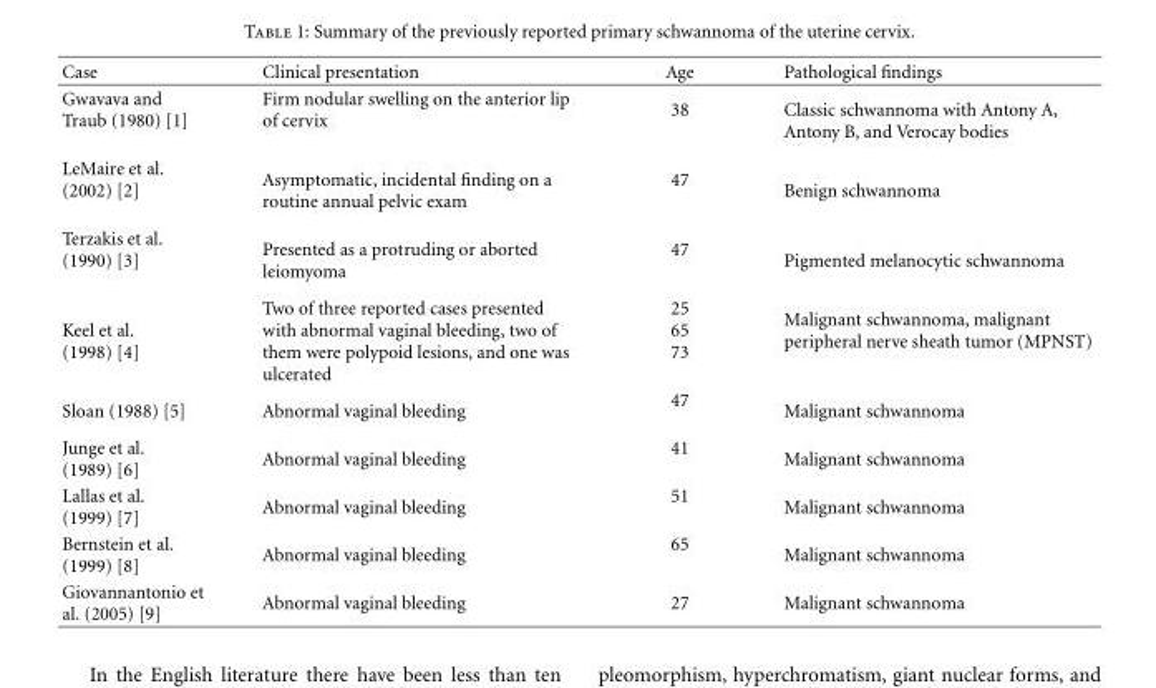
<table><thead><tr><td>Case</td><td>Clinical presentation</td><td>Age</td><td>Pathological findings</td></tr></thead><tbody><tr><td>Gwavava and Traub (1980) [1]</td><td>Firm nodular swelling on the anterior lip of cervix</td><td>38</td><td>Classic schwannoma with Antony A, Antony B, and Verocay bodies</td></tr><tr><td>LeMaire et al. (2002) [2]</td><td>Asymptomatic, incidental finding on a routine annual pelvic exam</td><td>47</td><td>Benign schwannoma</td></tr><tr><td>Terzakis et al. (1990) [3]</td><td>Presented as a protruding or aborted leiomyoma</td><td>47</td><td>Pigmented melanocytic schwannoma</td></tr><tr><td>Keel et al. (1998) [4]</td><td>Two of three reported cases presented with abnormal vaginal bleeding, two of them were polypoid lesions, and one was ulcerated</td><td>25 65 73</td><td>Malignant schwannoma, malignant peripheral nerve sheath tumor (MPNST)</td></tr><tr><td>Sloan (1988) [5]</td><td>Abnormal vaginal bleeding</td><td>47</td><td>Malignant schwannoma</td></tr><tr><td>Junge et al. (1989) [6]</td><td>Abnormal vaginal bleeding</td><td>41</td><td>Malignant schwannoma</td></tr><tr><td>Lallas et al. (1999) [7]</td><td>Abnormal vaginal bleeding</td><td>51</td><td>Malignant schwannoma</td></tr><tr><td>Bernstein et al. (1999) [8]</td><td>Abnormal vaginal bleeding</td><td>65</td><td>Malignant schwannoma</td></tr><tr><td>Giovannantonio et al. (2005) [9]</td><td>Abnormal vaginal bleeding</td><td>27</td><td>Malignant schwannoma</td></tr></tbody></table>